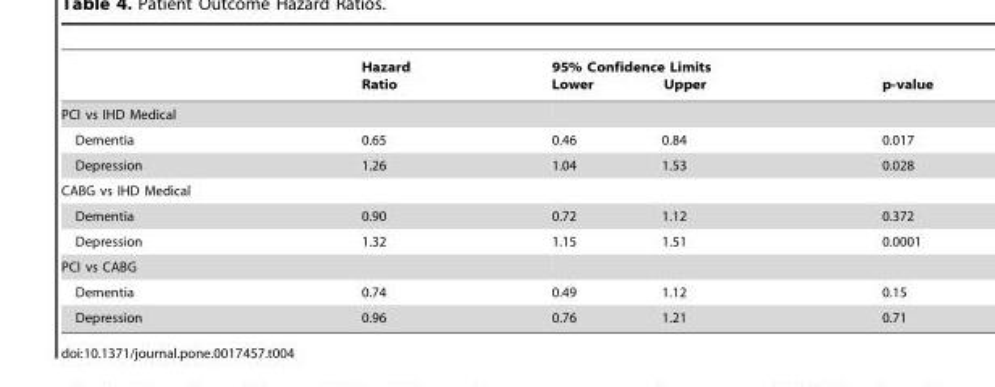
<table><thead><tr><td rowspan="2">PCI vs IHD Medical</td><td rowspan="2">Hazard Ratio</td><td colspan="2">95% Confidence Limits Lower Upper</td><td rowspan="2">p-value</td></tr><tr><td></td><td></td></tr></thead><tbody><tr><td>Dementia</td><td>0.65</td><td>0.46</td><td>0.84</td><td>0.017</td></tr><tr><td>Depression</td><td>1.26</td><td>1.04</td><td>1.53</td><td>0.028</td></tr><tr><td colspan="5">CABG vs IHD Medical</td></tr><tr><td>Dementia</td><td>0.90</td><td>0.72</td><td>1.12</td><td>0.372</td></tr><tr><td>Depression</td><td>1.32</td><td>1.15</td><td>1.51</td><td>0.0001</td></tr><tr><td colspan="5">PCI vs CABG</td></tr><tr><td>Dementia</td><td>0.74</td><td>0.49</td><td>1.12</td><td>0.15</td></tr><tr><td>Depression</td><td>0.96</td><td>0.76</td><td>1.21</td><td>0.71</td></tr></tbody></table>